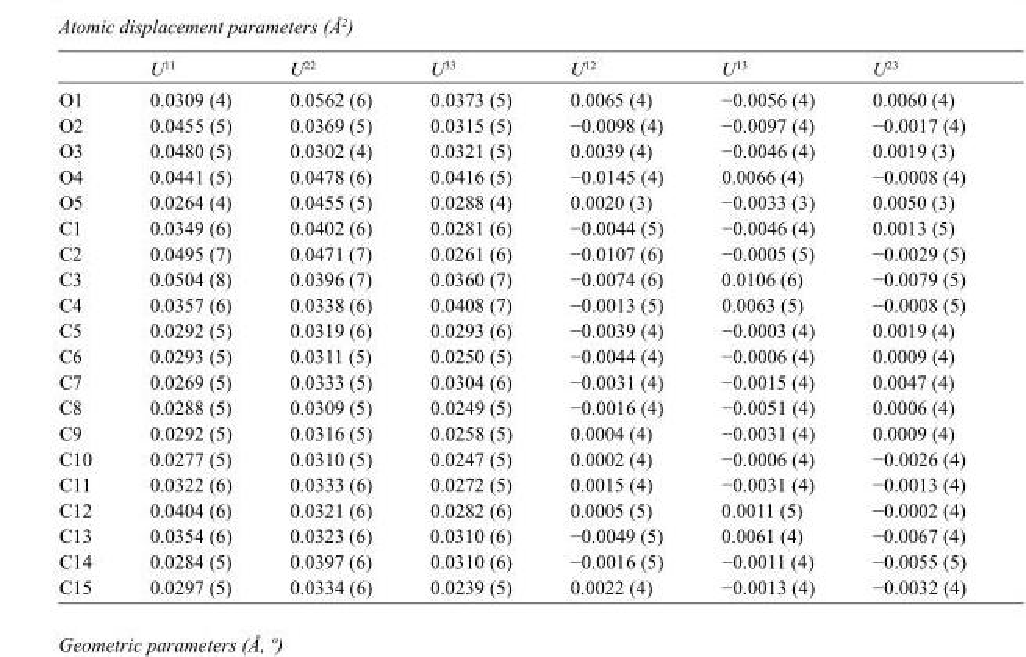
<table><thead><tr><td></td><td>U<sup>11</sup></td><td>U<sup>22</sup></td><td>U<sup>33</sup></td><td>U<sup>12</sup></td><td>U<sup>13</sup></td><td>U<sup>23</sup></td></tr></thead><tbody><tr><td>O1</td><td>0.0309 (4)</td><td>0.0562 (6)</td><td>0.0373 (5)</td><td>0.0065 (4)</td><td>−0.0056 (4)</td><td>0.0060 (4)</td></tr><tr><td>O2</td><td>0.0455 (5)</td><td>0.0369 (5)</td><td>0.0315 (5)</td><td>−0.0098 (4)</td><td>−0.0097 (4)</td><td>−0.0017 (4)</td></tr><tr><td>O3</td><td>0.0480 (5)</td><td>0.0302 (4)</td><td>0.0321 (5)</td><td>0.0039 (4)</td><td>−0.0046 (4)</td><td>0.0019 (3)</td></tr><tr><td>O4</td><td>0.0441 (5)</td><td>0.0478 (6)</td><td>0.0416 (5)</td><td>−0.0145 (4)</td><td>0.0066 (4)</td><td>−0.0008 (4)</td></tr><tr><td>O5</td><td>0.0264 (4)</td><td>0.0455 (5)</td><td>0.0288 (4)</td><td>0.0020 (3)</td><td>−0.0033 (3)</td><td>0.0050 (3)</td></tr><tr><td>C1</td><td>0.0349 (6)</td><td>0.0402 (6)</td><td>0.0281 (6)</td><td>−0.0044 (5)</td><td>−0.0046 (4)</td><td>0.0013 (5)</td></tr><tr><td>C2</td><td>0.0495 (7)</td><td>0.0471 (7)</td><td>0.0261 (6)</td><td>−0.0107 (6)</td><td>−0.0005 (5)</td><td>−0.0029 (5)</td></tr><tr><td>C3</td><td>0.0504 (8)</td><td>0.0396 (7)</td><td>0.0360 (7)</td><td>−0.0074 (6)</td><td>0.0106 (6)</td><td>−0.0079 (5)</td></tr><tr><td>C4</td><td>0.0357 (6)</td><td>0.0338 (6)</td><td>0.0408 (7)</td><td>−0.0013 (5)</td><td>0.0063 (5)</td><td>−0.0008 (5)</td></tr><tr><td>C5</td><td>0.0292 (5)</td><td>0.0319 (6)</td><td>0.0293 (6)</td><td>−0.0039 (4)</td><td>−0.0003 (4)</td><td>0.0019 (4)</td></tr><tr><td>C6</td><td>0.0293 (5)</td><td>0.0311 (5)</td><td>0.0250 (5)</td><td>−0.0044 (4)</td><td>−0.0006 (4)</td><td>0.0009 (4)</td></tr><tr><td>C7</td><td>0.0269 (5)</td><td>0.0333 (5)</td><td>0.0304 (6)</td><td>−0.0031 (4)</td><td>−0.0015 (4)</td><td>0.0047 (4)</td></tr><tr><td>C8</td><td>0.0288 (5)</td><td>0.0309 (5)</td><td>0.0249 (5)</td><td>−0.0016 (4)</td><td>−0.0051 (4)</td><td>0.0006 (4)</td></tr><tr><td>C9</td><td>0.0292 (5)</td><td>0.0316 (5)</td><td>0.0258 (5)</td><td>0.0004 (4)</td><td>−0.0031 (4)</td><td>0.0009 (4)</td></tr><tr><td>C10</td><td>0.0277 (5)</td><td>0.0310 (5)</td><td>0.0247 (5)</td><td>0.0002 (4)</td><td>−0.0006 (4)</td><td>−0.0026 (4)</td></tr><tr><td>C11</td><td>0.0322 (6)</td><td>0.0333 (6)</td><td>0.0272 (5)</td><td>0.0015 (4)</td><td>−0.0031 (4)</td><td>−0.0013 (4)</td></tr><tr><td>C12</td><td>0.0404 (6)</td><td>0.0321 (6)</td><td>0.0282 (6)</td><td>0.0005 (5)</td><td>0.0011 (5)</td><td>−0.0002 (4)</td></tr><tr><td>C13</td><td>0.0354 (6)</td><td>0.0323 (6)</td><td>0.0310 (6)</td><td>−0.0049 (5)</td><td>0.0061 (4)</td><td>−0.0067 (4)</td></tr><tr><td>C14</td><td>0.0284 (5)</td><td>0.0397 (6)</td><td>0.0310 (6)</td><td>−0.0016 (5)</td><td>−0.0011 (4)</td><td>−0.0055 (5)</td></tr><tr><td>C15</td><td>0.0297 (5)</td><td>0.0334 (6)</td><td>0.0239 (5)</td><td>0.0022 (4)</td><td>−0.0013 (4)</td><td>−0.0032 (4)</td></tr></tbody></table>